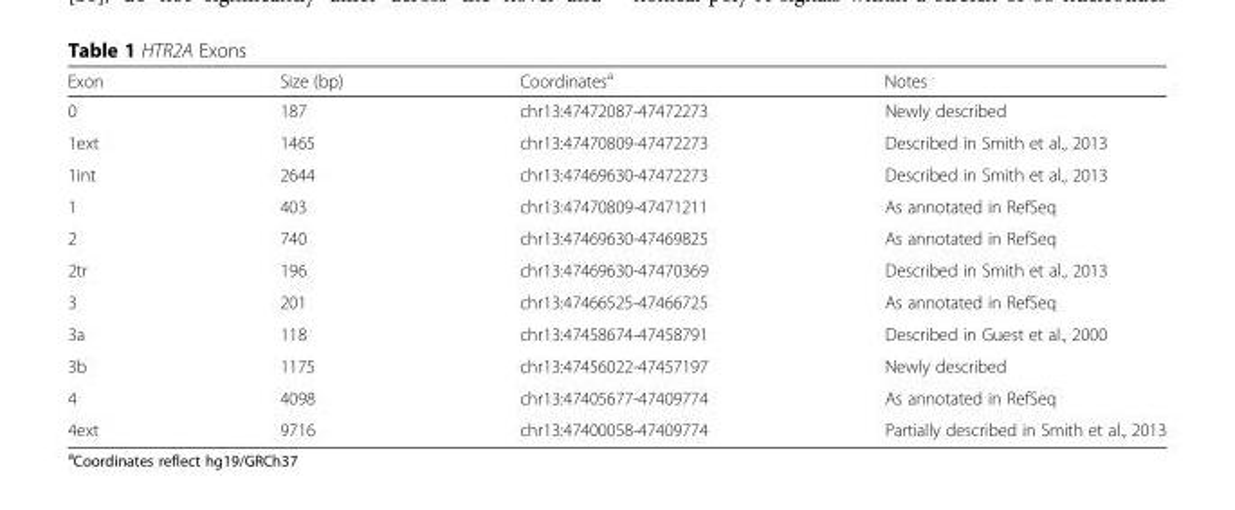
<table><thead><tr><td>Exon</td><td>Size (bp)</td><td>Coordinates<sup>a</sup></td><td>Notes</td></tr></thead><tbody><tr><td>0</td><td>187</td><td>chr13:47472087-47472273</td><td>Newly described</td></tr><tr><td>1ext</td><td>1465</td><td>chr13:47470809-47472273</td><td>Described in Smith et al., 2013</td></tr><tr><td>1int</td><td>2644</td><td>chr13:47469630-47472273</td><td>Described in Smith et al., 2013</td></tr><tr><td>1</td><td>403</td><td>chr13:47470809-47471211</td><td>As annotated in RefSeq</td></tr><tr><td>2</td><td>740</td><td>chr13:47469630-47469825</td><td>As annotated in RefSeq</td></tr><tr><td>2tr</td><td>196</td><td>chr13:47469630-47470369</td><td>Described in Smith et al., 2013</td></tr><tr><td>3</td><td>201</td><td>chr13:47466525-47466725</td><td>As annotated in RefSeq</td></tr><tr><td>3a</td><td>118</td><td>chr13:47458674-47458791</td><td>Described in Guest et al., 2000</td></tr><tr><td>3b</td><td>1175</td><td>chr13:47456022-47457197</td><td>Newly described</td></tr><tr><td>4</td><td>4098</td><td>chr13:47405677-47409774</td><td>As annotated in RefSeq</td></tr><tr><td>4ext</td><td>9716</td><td>chr13:47400058-47409774</td><td>Partially described in Smith et al., 2013</td></tr></tbody></table>